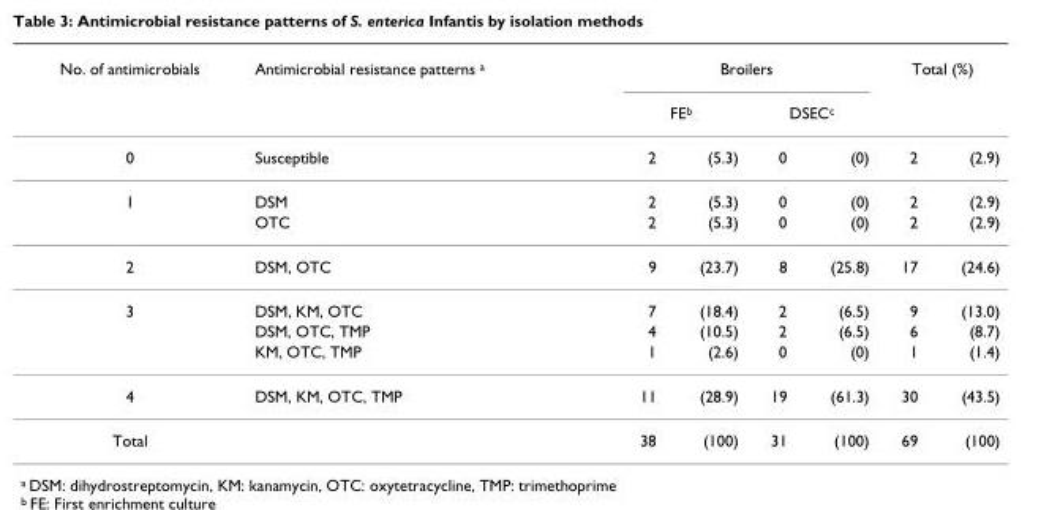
<table><tbody><tr><td rowspan="2">No. of antimicrobials</td><td>Antimicrobial resistance patterns a</td><td colspan="4">Broilers</td><td colspan="2">Total (%)</td></tr><tr><td></td><td colspan="2">FEb</td><td colspan="2">DSECc</td><td></td><td></td></tr><tr><td>0</td><td>Susceptible</td><td>2</td><td>(5.3)</td><td>0</td><td>(0)</td><td>2</td><td>(2.9)</td></tr><tr><td rowspan="2">1</td><td>DSM</td><td>2</td><td>(5.3)</td><td>0</td><td>(0)</td><td>2</td><td>(2.9)</td></tr><tr><td>OTC</td><td>2</td><td>(5.3)</td><td>0</td><td>(0)</td><td>2</td><td>(2.9)</td></tr><tr><td>2</td><td>DSM, OTC</td><td>9</td><td>(23.7)</td><td>8</td><td>(25.8)</td><td>17</td><td>(24.6)</td></tr><tr><td rowspan="3">3</td><td>DSM, KM, OTC</td><td>7</td><td>(18.4)</td><td>2</td><td>(6.5)</td><td>9</td><td>(13.0)</td></tr><tr><td>DSM, OTC, TMP</td><td>4</td><td>(10.5)</td><td>2</td><td>(6.5)</td><td>6</td><td>(8.7)</td></tr><tr><td>KM, OTC, TMP</td><td>1</td><td>(2.6)</td><td>0</td><td>(0)</td><td>1</td><td>(1.4)</td></tr><tr><td>4</td><td>DSM, KM, OTC, TMP</td><td>11</td><td>(28.9)</td><td>19</td><td>(61.3)</td><td>30</td><td>(43.5)</td></tr><tr><td>Total</td><td></td><td>38</td><td>(100)</td><td>31</td><td>(100)</td><td>69</td><td>(100)</td></tr></tbody></table>